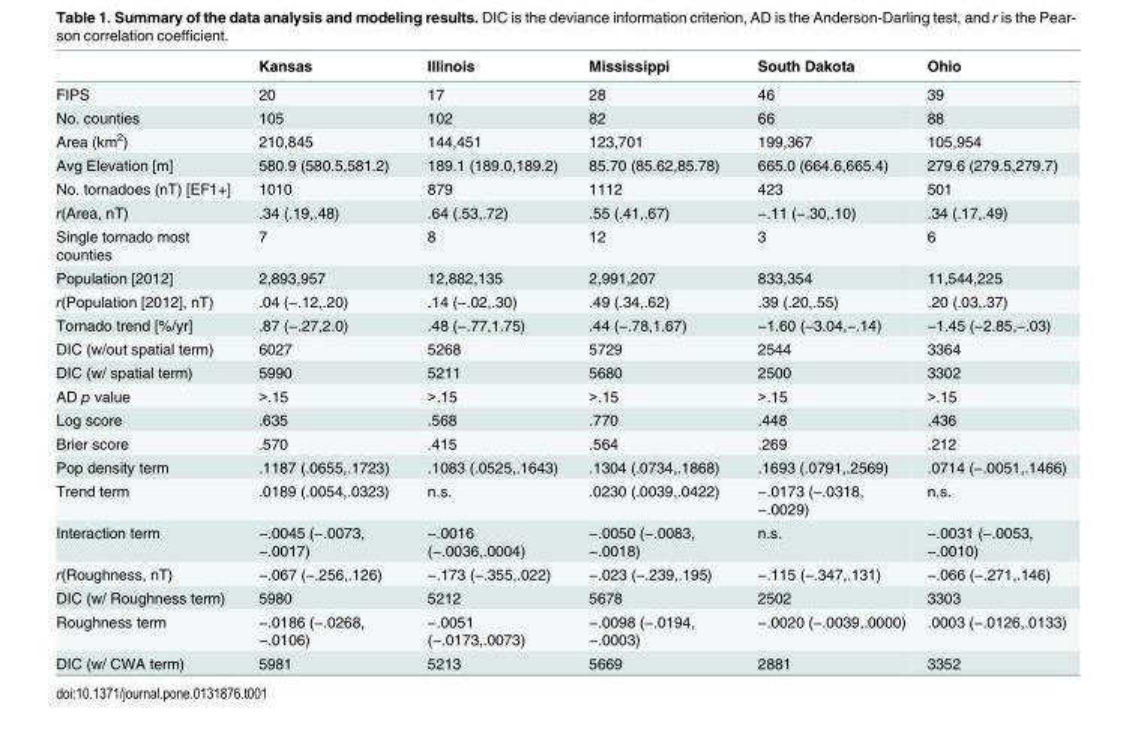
<table><thead><tr><td></td><td>Kansas</td><td>Illinois</td><td>Mississippi</td><td>South Dakota</td><td>Ohio</td></tr></thead><tbody><tr><td>FIPS</td><td>20</td><td>17</td><td>28</td><td>46</td><td>39</td></tr><tr><td>No. counties</td><td>105</td><td>102</td><td>82</td><td>66</td><td>88</td></tr><tr><td>Area (km<sup>2</sup>)</td><td>210,845</td><td>144,451</td><td>123,701</td><td>199,367</td><td>105,954</td></tr><tr><td>Avg Elevation [m]</td><td>580.9 (580.5,581.2)</td><td>189.1 (189.0,189.2)</td><td>85.70 (85.62,85.78)</td><td>665.0 (664.6,665.4)</td><td>279.6 (279.5,279.7)</td></tr><tr><td>No. tornadoes (nT) [EF1+]</td><td>1010</td><td>879</td><td>1112</td><td>423</td><td>501</td></tr><tr><td>r(Area, nT)</td><td>.34 (.19,.48)</td><td>.64 (.53,.72)</td><td>.55 (.41,.67)</td><td>−.11 (−.30,.10)</td><td>.34 (.17,.49)</td></tr><tr><td>Single tornado most counties</td><td>7</td><td>8</td><td>12</td><td>3</td><td>6</td></tr><tr><td>Population [2012]</td><td>2,893,957</td><td>12,882,135</td><td>2,991,207</td><td>833,354</td><td>11,544,225</td></tr><tr><td>r(Population [2012], nT)</td><td>.04 (−.12,.20)</td><td>.14 (−.02,.30)</td><td>.49 (.34,.62)</td><td>.39 (.20,.55)</td><td>.20 (.03,.37)</td></tr><tr><td>Tornado trend [%/yr]</td><td>.87 (−.27,2.0)</td><td>.48 (−.77,1.75)</td><td>.44 (−.78,1.67)</td><td>−1.60 (−3.04,−.14)</td><td>−1.45 (−2.85,−.03)</td></tr><tr><td>DIC (w/out spatial term)</td><td>6027</td><td>5268</td><td>5729</td><td>2544</td><td>3364</td></tr><tr><td>DIC (w/ spatial term)</td><td>5990</td><td>5211</td><td>5680</td><td>2500</td><td>3302</td></tr><tr><td>AD p value</td><td>&gt;.15</td><td>&gt;.15</td><td>&gt;.15</td><td>&gt;.15</td><td>&gt;.15</td></tr><tr><td>Log score</td><td>.635</td><td>.568</td><td>.770</td><td>.448</td><td>.436</td></tr><tr><td>Brier score</td><td>.570</td><td>.415</td><td>.564</td><td>.269</td><td>.212</td></tr><tr><td>Pop density term</td><td>.1187 (.0655,.1723)</td><td>.1083 (.0525,.1643)</td><td>.1304 (.0734,.1868)</td><td>.1693 (.0791,.2569)</td><td>.0714 (−.0051,.1466)</td></tr><tr><td>Trend term</td><td>.0189 (.0054,.0323)</td><td>n.s.</td><td>.0230 (.0039,.0422)</td><td>−.0173 (−.0318, −.0029)</td><td>n.s.</td></tr><tr><td>Interaction term</td><td>−.0045 (−.0073, −.0017)</td><td>−.0016 (−.0036,.0004)</td><td>−.0050 (−.0083, −.0018)</td><td>n.s.</td><td>−.0031 (−.0053, −.0010)</td></tr><tr><td>r(Roughness, nT)</td><td>−.067 (−.256,.126)</td><td>−.173 (−.355,.022)</td><td>−.023 (−.239,.195)</td><td>−.115 (−.347,.131)</td><td>−.066 (−.271,.146)</td></tr><tr><td>DIC (w/ Roughness term)</td><td>5980</td><td>5212</td><td>5678</td><td>2502</td><td>3303</td></tr><tr><td>Roughness term</td><td>−.0186 (−.0268, −.0106)</td><td>−.0051 (−.0173,.0073)</td><td>−.0098 (−.0194, −.0003)</td><td>−.0020 (−.0039,.0000)</td><td>.0003 (−.0126,.0133)</td></tr><tr><td>DIC (w/ CWA term)</td><td>5981</td><td>5213</td><td>5669</td><td>2881</td><td>3352</td></tr></tbody></table>